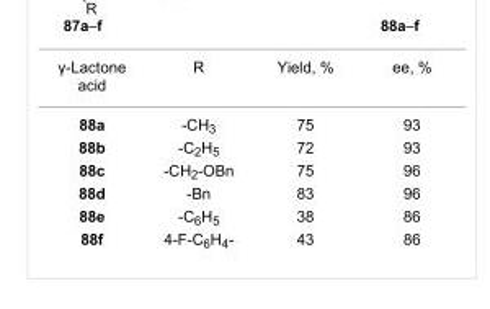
<table><tbody><tr><td>γ-Lactone acid</td><td>R</td><td>Yield, %</td><td>ee, %</td></tr><tr><td>88a</td><td>-CH<sub>3</sub></td><td>75</td><td>93</td></tr><tr><td>88b</td><td>-C<sub>2</sub>H<sub>5</sub></td><td>72</td><td>93</td></tr><tr><td>88c</td><td>-CH<sub>2</sub>-OBn</td><td>75</td><td>96</td></tr><tr><td>88d</td><td>-Bn</td><td>83</td><td>96</td></tr><tr><td>88e</td><td>-C<sub>6</sub>H<sub>5</sub></td><td>38</td><td>86</td></tr><tr><td>88f</td><td>4-F-C<sub>6</sub>H<sub>4</sub>-</td><td>43</td><td>86</td></tr></tbody></table>